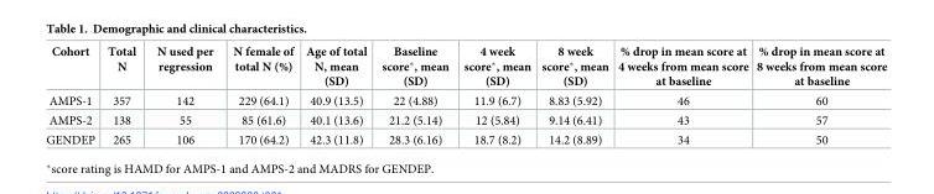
<table><thead><tr><td>Cohort</td><td>Total N</td><td>N used per regression</td><td>N female of total N (%)</td><td>Age of total N, mean (SD)</td><td>Baseline score*, mean (SD)</td><td>4 week score*, mean (SD)</td><td>8 week score*, mean (SD)</td><td>% drop in mean score at 4 weeks from mean score at baseline</td><td>% drop in mean score at 8 weeks from mean score at baseline</td></tr></thead><tbody><tr><td>AMPS-1</td><td>357</td><td>142</td><td>229 (64.1)</td><td>40.9 (13.5)</td><td>22 (4.88)</td><td>11.9 (6.7)</td><td>8.83 (5.92)</td><td>46</td><td>60</td></tr><tr><td>AMPS-2</td><td>138</td><td>55</td><td>85 (61.6)</td><td>40.1 (13.6)</td><td>21.2 (5.14)</td><td>12 (5.84)</td><td>9.14 (6.41)</td><td>43</td><td>57</td></tr><tr><td>GENDEP</td><td>265</td><td>106</td><td>170 (64.2)</td><td>42.3 (11.8)</td><td>28.3 (6.16)</td><td>18.7 (8.2)</td><td>14.2 (8.89)</td><td>34</td><td>50</td></tr></tbody></table>